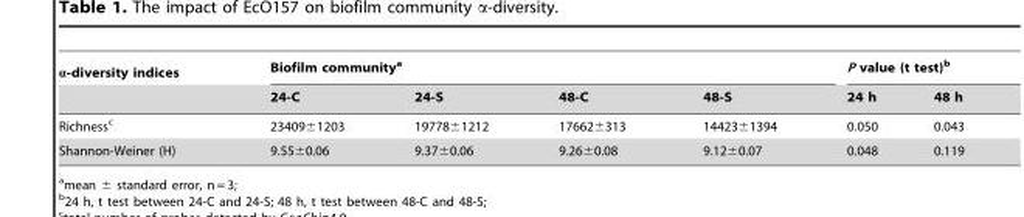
<table><thead><tr><td rowspan="2">α-diversity indices</td><td colspan="4">Biofilm community<sup>a</sup></td><td colspan="2">P value (t test)<sup>b</sup></td></tr><tr><td>24-C</td><td>24-S</td><td>48-C</td><td>48-S</td><td>24 h</td><td>48 h</td></tr></thead><tbody><tr><td>Richness<sup>c</sup></td><td>23409±1203</td><td>19778±1212</td><td>17662±313</td><td>14423±1394</td><td>0.050</td><td>0.043</td></tr><tr><td>Shannon-Weiner (H)</td><td>9.55±0.06</td><td>9.37±0.06</td><td>9.26±0.08</td><td>9.12±0.07</td><td>0.048</td><td>0.119</td></tr></tbody></table>